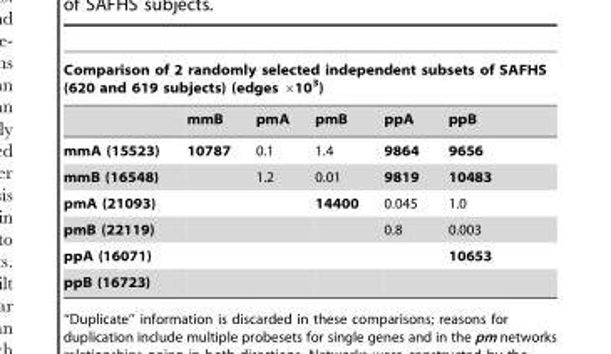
<table><thead><tr><td colspan="6">Comparison of 2 randomly selected independent subsets of SAFHS (620 and 619 subjects) (edges ×10<sup>3</sup>)</td></tr><tr><td></td><td>mmB</td><td>pmA</td><td>pmB</td><td>ppA</td><td>ppB</td></tr></thead><tbody><tr><td>mmA (15523)</td><td>10787</td><td>0.1</td><td>1.4</td><td>9864</td><td>9656</td></tr><tr><td>mmB (16548)</td><td></td><td>1.2</td><td>0.01</td><td>9819</td><td>10483</td></tr><tr><td>pmA (21093)</td><td></td><td></td><td>14400</td><td>0.045</td><td>1.0</td></tr><tr><td>pmB (22119)</td><td></td><td></td><td></td><td>0.8</td><td>0.003</td></tr><tr><td>ppA (16071)</td><td></td><td></td><td></td><td></td><td>10653</td></tr><tr><td>ppB (16723)</td><td></td><td></td><td></td><td></td><td></td></tr></tbody></table>